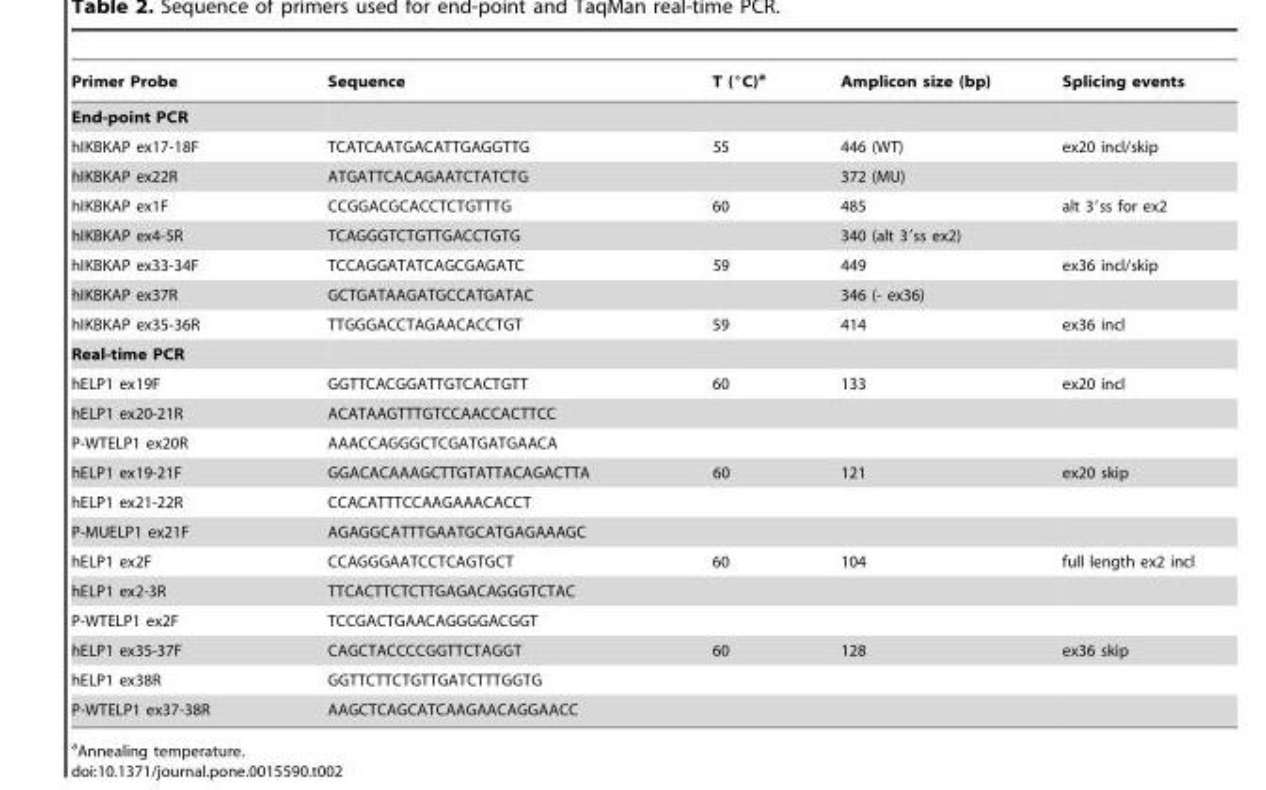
<table><thead><tr><td>Primer Probe</td><td>Sequence</td><td>T (°C)<sup>a</sup></td><td>Amplicon size (bp)</td><td>Splicing events</td></tr></thead><tbody><tr><td colspan="5">End-point PCR</td></tr><tr><td>hIKBKAP ex17-18F</td><td>TCATCAATGACATTGAGGTTG</td><td>55</td><td>446 (WT)</td><td>ex20 incl/skip</td></tr><tr><td>hIKBKAP ex22R</td><td>ATGATTCACAGAATCTATCTG</td><td></td><td>372 (MU)</td><td></td></tr><tr><td>hIKBKAP ex1F</td><td>CCGGACGCACCTCTGTTTG</td><td>60</td><td>485</td><td>alt 3′ss for ex2</td></tr><tr><td>hIKBKAP ex4-5R</td><td>TCAGGGTCTGTTGACCTGTG</td><td></td><td>340 (alt 3′ss ex2)</td><td></td></tr><tr><td>hIKBKAP ex33-34F</td><td>TCCAGGATATCAGCGAGATC</td><td>59</td><td>449</td><td>ex36 incl/skip</td></tr><tr><td>hIKBKAP ex37R</td><td>GCTGATAAGATGCCATGATAC</td><td></td><td>346 (- ex36)</td><td></td></tr><tr><td>hIKBKAP ex35-36R</td><td>TTGGGACCTAGAACACCTGT</td><td>59</td><td>414</td><td>ex36 incl</td></tr><tr><td colspan="5">Real-time PCR</td></tr><tr><td>hELP1 ex19F</td><td>GGTTCACGGATTGTCACTGTT</td><td>60</td><td>133</td><td>ex20 incl</td></tr><tr><td>hELP1 ex20-21R</td><td>ACATAAGTTTGTCCAACCACTTCC</td><td></td><td></td><td></td></tr><tr><td>P-WTELP1 ex20R</td><td>AAACCAGGGCTCGATGATGAACA</td><td></td><td></td><td></td></tr><tr><td>hELP1 ex19-21F</td><td>GGACACAAAGCTTGTATTACAGACTTA</td><td>60</td><td>121</td><td>ex20 skip</td></tr><tr><td>hELP1 ex21-22R</td><td>CCACATTTCCAAGAAACACCT</td><td></td><td></td><td></td></tr><tr><td>P-MUELP1 ex21F</td><td>AGAGGCATTTGAATGCATGAGAAAGC</td><td></td><td></td><td></td></tr><tr><td>hELP1 ex2F</td><td>CCAGGGAATCCTCAGTGCT</td><td>60</td><td>104</td><td>full length ex2 incl</td></tr><tr><td>hELP1 ex2-3R</td><td>TTCACTTCTCTTGAGACAGGGTCTAC</td><td></td><td></td><td></td></tr><tr><td>P-WTELP1 ex2F</td><td>TCCGACTGAACAGGGGACGGT</td><td></td><td></td><td></td></tr><tr><td>hELP1 ex35-37F</td><td>CAGCTACCCCGGTTCTAGGT</td><td>60</td><td>128</td><td>ex36 skip</td></tr><tr><td>hELP1 ex38R</td><td>GGTTCTTCTGTTGATCTTTGGTG</td><td></td><td></td><td></td></tr><tr><td>P-WTELP1 ex37-38R</td><td>AAGCTCAGCATCAAGAACAGGAACC</td><td></td><td></td><td></td></tr></tbody></table>